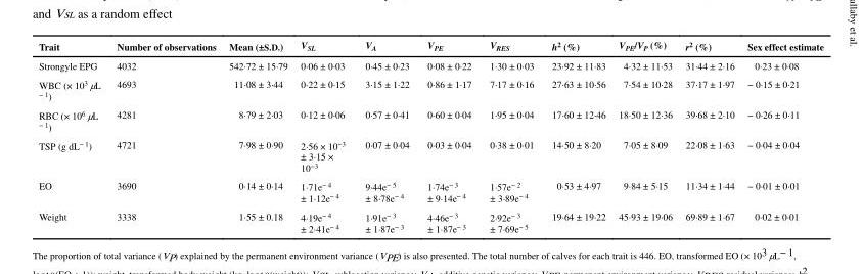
<table><thead><tr><td>Trait</td><td>Number of observations</td><td>Mean (±S.D.)</td><td>V<sub>SL</sub></td><td>V<sub>A</sub></td><td>V<sub>PE</sub></td><td>V<sub>RES</sub></td><td>h<sup>2</sup> (%)</td><td>V<sub>PE</sub>/V<sub>P</sub> (%)</td><td>r<sup>2</sup> (%)</td><td>Sex effect estimate</td></tr></thead><tbody><tr><td>Strongyle EPG</td><td>4032</td><td>542·72 ± 15·79</td><td>0·06 ± 0·03</td><td>0·45 ± 0·23</td><td>0·08 ± 0·22</td><td>1·30 ± 0·03</td><td>23·92 ± 11·83</td><td>4·32 ± 11·53</td><td>31·44 ± 2·16</td><td>0·23 ± 0·08</td></tr><tr><td>WBC (× 10<sup>3</sup> μL <sup>− 1</sup>)</td><td>4693</td><td>11·08 ± 3·44</td><td>0·22 ± 0·15</td><td>3·15 ± 1·22</td><td>0·86 ± 1·17</td><td>7·17 ± 0·16</td><td>27·63 ± 10·56</td><td>7·54 ± 10·28</td><td>37·17 ± 1·97</td><td>− 0·15 ± 0·21</td></tr><tr><td>RBC (× 10<sup>6</sup> μL <sup>− 1</sup>)</td><td>4281</td><td>8·79 ± 2·03</td><td>0·12 ± 0·06</td><td>0·57 ± 0·41</td><td>0·60 ± 0·04</td><td>1·95 ± 0·04</td><td>17·60 ± 12·46</td><td>18·50 ± 12·36</td><td>39·68 ± 2·10</td><td>− 0·26 ± 0·11</td></tr><tr><td>TSP (g dL<sup>− 1</sup>)</td><td>4721</td><td>7·98 ± 0·90</td><td>2·56 × 10<sup>−3</sup> ± 3·15 × 10<sup>−3</sup></td><td>0·07 ± 0·04</td><td>0·03 ± 0·04</td><td>0·38 ± 0·01</td><td>14·50 ± 8·20</td><td>7·05 ± 8·09</td><td>22·08 ± 1·63</td><td>− 0·04 ± 0·04</td></tr><tr><td>EO</td><td>3690</td><td>0·14 ± 0·14</td><td>1·71e<sup>− 4</sup> ± 1·12e<sup>− 4</sup></td><td>9·44e<sup>− 5</sup> ± 8·78e<sup>− 4</sup></td><td>1·74e<sup>− 3</sup> ± 9·14e<sup>− 4</sup></td><td>1·57e<sup>− 2</sup> ± 3·89e<sup>− 4</sup></td><td>0·53 ± 4·97</td><td>9·84 ± 5·15</td><td>11·34 ± 1·44</td><td>− 0·01 ± 0·01</td></tr><tr><td>Weight</td><td>3338</td><td>1·55 ± 0.18</td><td>4·19e<sup>− 4</sup> ± 2·41e<sup>− 4</sup></td><td>1·91e<sup>− 3</sup> ± 1·87e<sup>− 3</sup></td><td>4·46e<sup>− 3</sup> ± 1·87e<sup>− 3</sup></td><td>2·92e<sup>− 3</sup> ± 7·69e<sup>− 5</sup></td><td>19·64 ± 19·22</td><td>45·93 ± 19·06</td><td>69·89 ± 1·67</td><td>0·02 ± 0·01</td></tr></tbody></table>